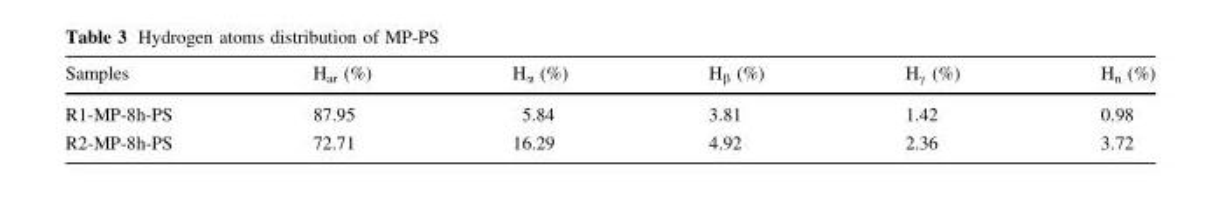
<table><thead><tr><td>Samples</td><td>H<sub>ar</sub> (%)</td><td>H<sub>α</sub> (%)</td><td>H<sub>β</sub> (%)</td><td>H<sub>γ</sub> (%)</td><td>H<sub>n</sub> (%)</td></tr></thead><tbody><tr><td>R1-MP-8h-PS</td><td>87.95</td><td>5.84</td><td>3.81</td><td>1.42</td><td>0.98</td></tr><tr><td>R2-MP-8h-PS</td><td>72.71</td><td>16.29</td><td>4.92</td><td>2.36</td><td>3.72</td></tr></tbody></table>